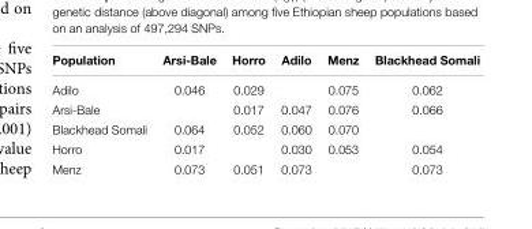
<table><thead><tr><td>Population</td><td>Arsi-Bale</td><td>Horro</td><td>Adilo</td><td>Menz</td><td>Blackhead Somali</td></tr></thead><tbody><tr><td>Adilo</td><td>0.046</td><td>0.029</td><td></td><td>0.075</td><td>0.062</td></tr><tr><td>Arsi-Bale</td><td></td><td>0.017</td><td>0.047</td><td>0.076</td><td>0.066</td></tr><tr><td>Blackhead Somali</td><td>0.064</td><td>0.052</td><td>0.060</td><td>0.070</td><td></td></tr><tr><td>Horro</td><td>0.017</td><td></td><td>0.030</td><td>0.053</td><td>0.054</td></tr><tr><td>Menz</td><td>0.073</td><td>0.051</td><td>0.073</td><td></td><td>0.073</td></tr></tbody></table>